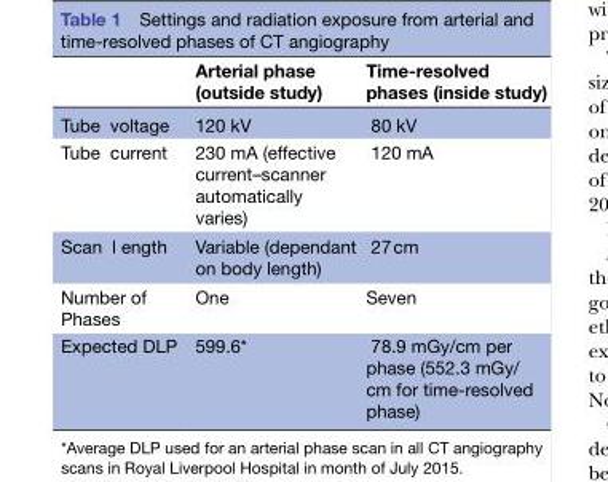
<table><thead><tr><td></td><td>Arterial phase (outside study)</td><td>Time-resolved phases (inside study)</td></tr></thead><tbody><tr><td>Tube voltage</td><td>120 kV</td><td>80 kV</td></tr><tr><td>Tube current</td><td>230 mA (effective current–scanner automatically varies)</td><td>120 mA</td></tr><tr><td>Scan l ength</td><td>Variable (dependant on body length)</td><td>27 cm</td></tr><tr><td>Number of Phases</td><td>One</td><td>Seven</td></tr><tr><td>Expected DLP</td><td>599.6*</td><td>78.9 mGy/cm per phase (552.3 mGy/ cm for time-resolved phase)</td></tr></tbody></table>